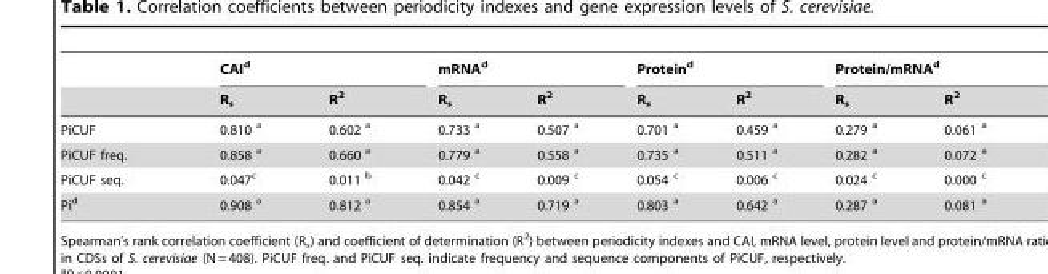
<table><thead><tr><td rowspan="2"></td><td colspan="2">CAI<sup>d</sup></td><td colspan="2">mRNA<sup>d</sup></td><td colspan="2">Protein<sup>d</sup></td><td colspan="2">Protein/mRNA<sup>d</sup></td></tr><tr><td>R<sub>s</sub></td><td>R<sup>2</sup></td><td>R<sub>s</sub></td><td>R<sup>2</sup></td><td>R<sub>s</sub></td><td>R<sup>2</sup></td><td>R<sub>s</sub></td><td>R<sup>2</sup></td></tr></thead><tbody><tr><td>PiCUF</td><td>0.810 a</td><td>0.602 a</td><td>0.733 a</td><td>0.507 a</td><td>0.701 a</td><td>0.459 a</td><td>0.279 a</td><td>0.061 a</td></tr><tr><td>PiCUF freq.</td><td>0.858 a</td><td>0.660 a</td><td>0.779 a</td><td>0.558 a</td><td>0.735 a</td><td>0.511 a</td><td>0.282 a</td><td>0.072 a</td></tr><tr><td>PiCUF seq.</td><td>0.047<sup>c</sup></td><td>0.011 b</td><td>0.042 c</td><td>0.009 c</td><td>0.054 c</td><td>0.006 c</td><td>0.024 c</td><td>0.000 c</td></tr><tr><td>Pi<sup>d</sup></td><td>0.908 a</td><td>0.812 a</td><td>0.854 a</td><td>0.719 a</td><td>0.803 a</td><td>0.642 a</td><td>0.287 a</td><td>0.081 a</td></tr></tbody></table>